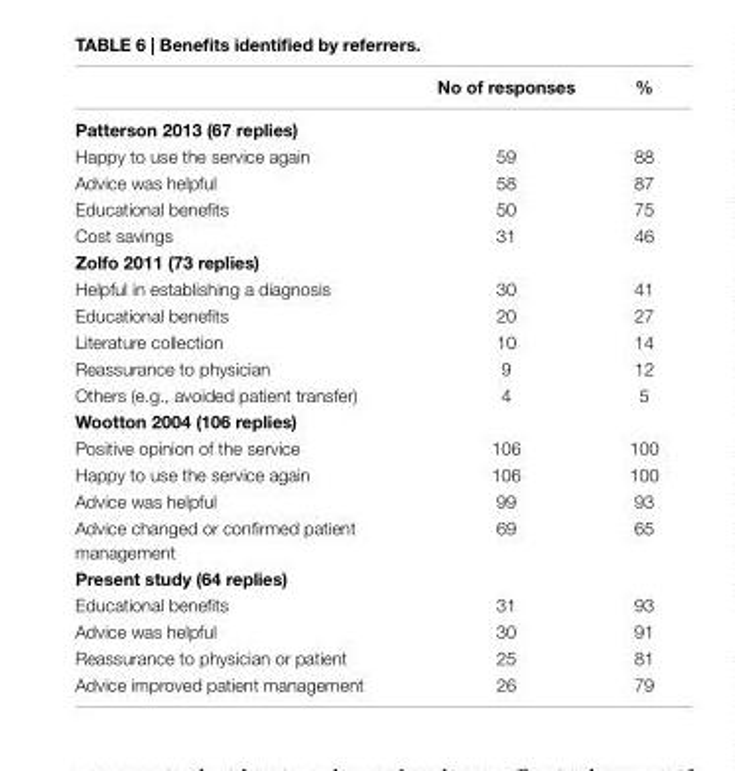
<table><thead><tr><td></td><td>no of responses</td><td>%</td></tr></thead><tbody><tr><td colspan="3">Patterson 2013 (67 replies)</td></tr><tr><td>Happy to use the service again</td><td>59</td><td>88</td></tr><tr><td>Advice was helpful</td><td>58</td><td>87</td></tr><tr><td>Educational benefits</td><td>50</td><td>75</td></tr><tr><td>Cost savings</td><td>31</td><td>46</td></tr><tr><td colspan="3">Zolfo 2011 (73 replies)</td></tr><tr><td>Helpful in establishing a diagnosis</td><td>30</td><td>41</td></tr><tr><td>Educational benefits</td><td>20</td><td>27</td></tr><tr><td>Literature collection</td><td>10</td><td>14</td></tr><tr><td>Reassurance to physician</td><td>9</td><td>12</td></tr><tr><td>Others (e.g., avoided patient transfer)</td><td>4</td><td>5</td></tr><tr><td colspan="3">Wootton 2004 (106 replies)</td></tr><tr><td>Positive opinion of the service</td><td>106</td><td>100</td></tr><tr><td>Happy to use the service again</td><td>106</td><td>100</td></tr><tr><td>Advice was helpful</td><td>99</td><td>93</td></tr><tr><td>Advice changed or confirmed patient management</td><td>69</td><td>65</td></tr><tr><td colspan="3">Present study (64 replies)</td></tr><tr><td>Educational benefits</td><td>31</td><td>93</td></tr><tr><td>Advice was helpful</td><td>30</td><td>91</td></tr><tr><td>Reassurance to physician or patient</td><td>25</td><td>81</td></tr><tr><td>Advice improved patient management</td><td>26</td><td>79</td></tr></tbody></table>